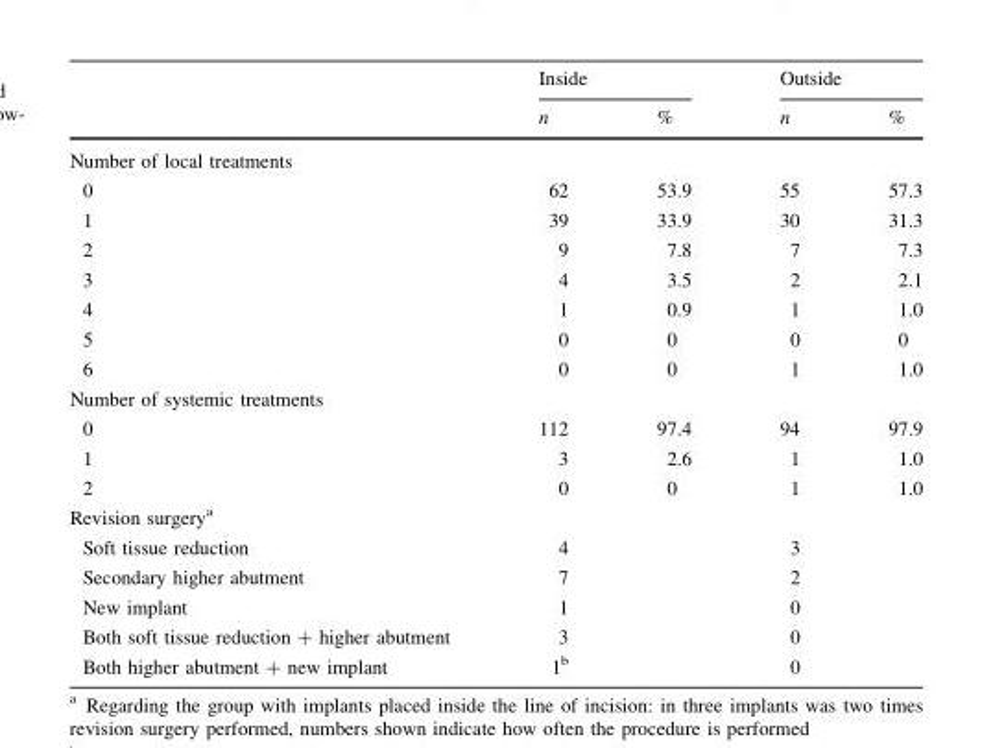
<table><thead><tr><td rowspan="2"></td><td colspan="2">Inside</td><td colspan="2">Outside</td></tr><tr><td>n</td><td>%</td><td>n</td><td>%</td></tr></thead><tbody><tr><td colspan="5">Number of local treatments</td></tr><tr><td>0</td><td>62</td><td>53.9</td><td>55</td><td>57.3</td></tr><tr><td>1</td><td>39</td><td>33.9</td><td>30</td><td>31.3</td></tr><tr><td>2</td><td>9</td><td>7.8</td><td>7</td><td>7.3</td></tr><tr><td>3</td><td>4</td><td>3.5</td><td>2</td><td>2.1</td></tr><tr><td>4</td><td>1</td><td>0.9</td><td>1</td><td>1.0</td></tr><tr><td>5</td><td>0</td><td>0</td><td>0</td><td>0</td></tr><tr><td>6</td><td>0</td><td>0</td><td>1</td><td>1.0</td></tr><tr><td colspan="5">Number of systemic treatments</td></tr><tr><td>0</td><td>112</td><td>97.4</td><td>94</td><td>97.9</td></tr><tr><td>1</td><td>3</td><td>2.6</td><td>1</td><td>1.0</td></tr><tr><td>2</td><td>0</td><td>0</td><td>1</td><td>1.0</td></tr><tr><td colspan="5">Revision surgery<sup>a</sup></td></tr><tr><td>Soft tissue reduction</td><td>4</td><td></td><td>3</td><td></td></tr><tr><td>Secondary higher abutment</td><td>7</td><td></td><td>2</td><td></td></tr><tr><td>New implant</td><td>1</td><td></td><td>0</td><td></td></tr><tr><td>Both soft tissue reduction + higher abutment</td><td>3</td><td></td><td>0</td><td></td></tr><tr><td>Both higher abutment + new implant</td><td>1<sup>b</sup></td><td></td><td>0</td><td></td></tr></tbody></table>